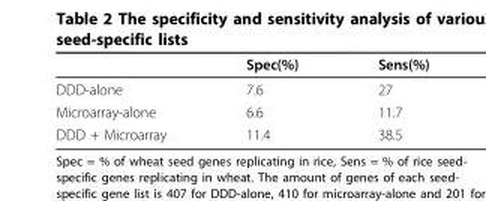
<table><thead><tr><td></td><td>Spec(%)</td><td>Sens(%)</td></tr></thead><tbody><tr><td>DDD-alone</td><td>7.6</td><td>27</td></tr><tr><td>Microarray-alone</td><td>6.6</td><td>11.7</td></tr><tr><td>DDD + Microarray</td><td>11.4</td><td>38.5</td></tr></tbody></table>